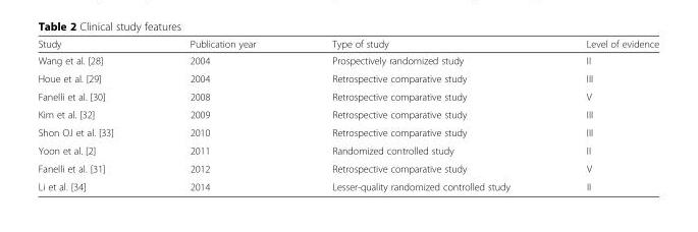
<table><thead><tr><td>Study</td><td>Publication year</td><td>Type of study</td><td>Level of evidence</td></tr></thead><tbody><tr><td>Wang et al. [28]</td><td>2004</td><td>Prospectively randomized study</td><td>II</td></tr><tr><td>Houe et al. [29]</td><td>2004</td><td>Retrospective comparative study</td><td>III</td></tr><tr><td>Fanelli et al. [30]</td><td>2008</td><td>Retrospective comparative study</td><td>V</td></tr><tr><td>Kim et al. [32]</td><td>2009</td><td>Retrospective comparative study</td><td>III</td></tr><tr><td>Shon OJ et al. [33]</td><td>2010</td><td>Retrospective comparative study</td><td>III</td></tr><tr><td>Yoon et al. [2]</td><td>2011</td><td>Randomized controlled study</td><td>II</td></tr><tr><td>Fanelli et al. [31]</td><td>2012</td><td>Retrospective comparative study</td><td>V</td></tr><tr><td>Li et al. [34]</td><td>2014</td><td>Lesser-quality randomized controlled study</td><td>II</td></tr></tbody></table>